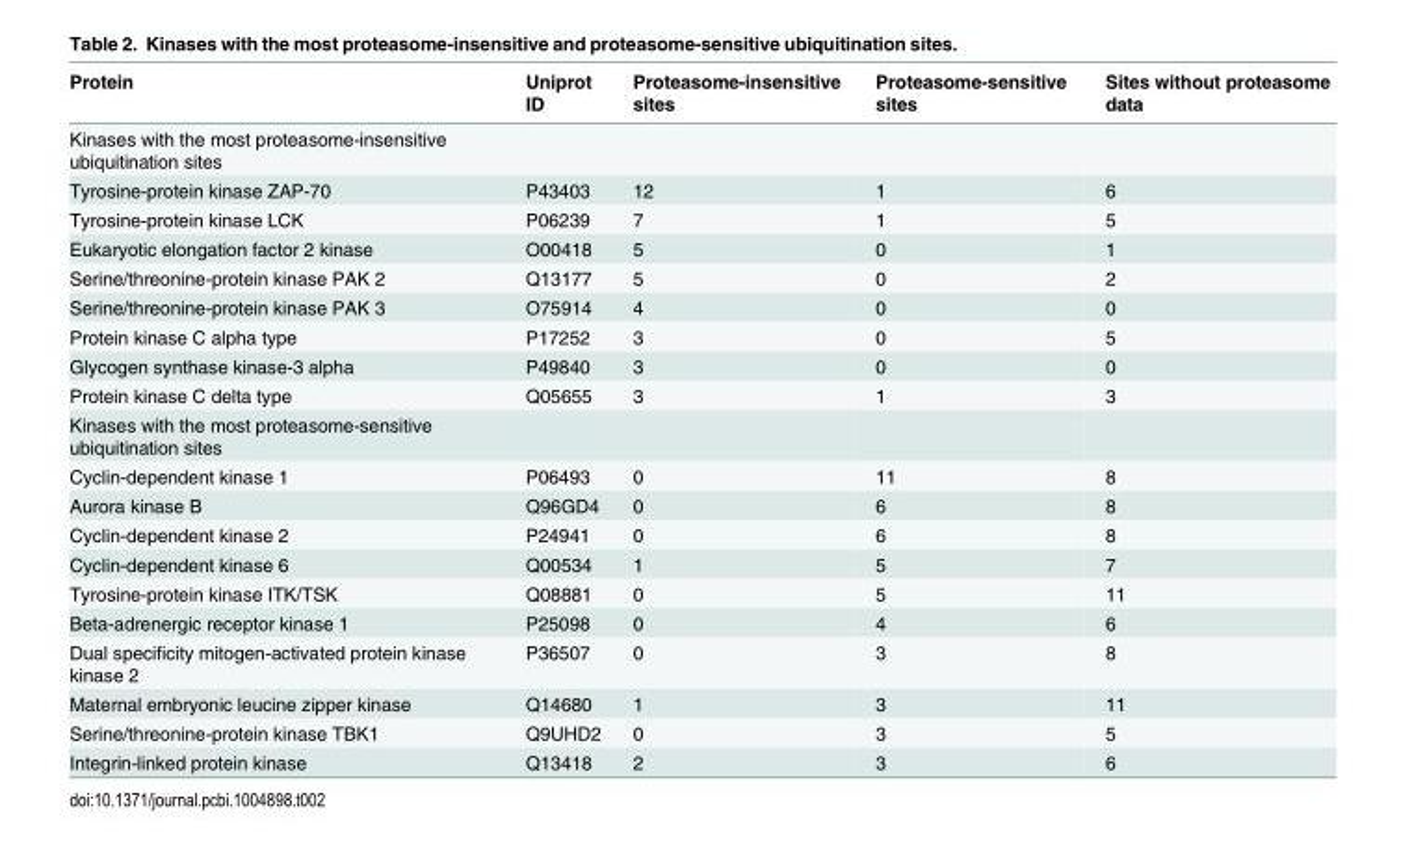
<table><thead><tr><td>Protein</td><td>Uniprot ID</td><td>Proteasome-insensitive sites</td><td>Proteasome-sensitive sites</td><td>Sites without proteasome data</td></tr></thead><tbody><tr><td colspan="5">Kinases with the most proteasome-insensitive ubiquitination sites</td></tr><tr><td>Tyrosine-protein kinase ZAP-70</td><td>P43403</td><td>12</td><td>1</td><td>6</td></tr><tr><td>Tyrosine-protein kinase LCK</td><td>P06239</td><td>7</td><td>1</td><td>5</td></tr><tr><td>Eukaryotic elongation factor 2 kinase</td><td>O00418</td><td>5</td><td>0</td><td>1</td></tr><tr><td>Serine/threonine-protein kinase PAK 2</td><td>Q13177</td><td>5</td><td>0</td><td>2</td></tr><tr><td>Serine/threonine-protein kinase PAK 3</td><td>O75914</td><td>4</td><td>0</td><td>0</td></tr><tr><td>Protein kinase C alpha type</td><td>P17252</td><td>3</td><td>0</td><td>5</td></tr><tr><td>Glycogen synthase kinase-3 alpha</td><td>P49840</td><td>3</td><td>0</td><td>0</td></tr><tr><td>Protein kinase C delta type</td><td>Q05655</td><td>3</td><td>1</td><td>3</td></tr><tr><td colspan="5">Kinases with the most proteasome-sensitive ubiquitination sites</td></tr><tr><td>Cyclin-dependent kinase 1</td><td>P06493</td><td>0</td><td>11</td><td>8</td></tr><tr><td>Aurora kinase B</td><td>Q96GD4</td><td>0</td><td>6</td><td>8</td></tr><tr><td>Cyclin-dependent kinase 2</td><td>P24941</td><td>0</td><td>6</td><td>8</td></tr><tr><td>Cyclin-dependent kinase 6</td><td>Q00534</td><td>1</td><td>5</td><td>7</td></tr><tr><td>Tyrosine-protein kinase ITK/TSK</td><td>Q08881</td><td>0</td><td>5</td><td>11</td></tr><tr><td>Beta-adrenergic receptor kinase 1</td><td>P25098</td><td>0</td><td>4</td><td>6</td></tr><tr><td>Dual specificity mitogen-activated protein kinase kinase 2</td><td>P36507</td><td>0</td><td>3</td><td>8</td></tr><tr><td>Maternal embryonic leucine zipper kinase</td><td>Q14680</td><td>1</td><td>3</td><td>11</td></tr><tr><td>Serine/threonine-protein kinase TBK1</td><td>Q9UHD2</td><td>0</td><td>3</td><td>5</td></tr><tr><td>Integrin-linked protein kinase</td><td>Q13418</td><td>2</td><td>3</td><td>6</td></tr></tbody></table>